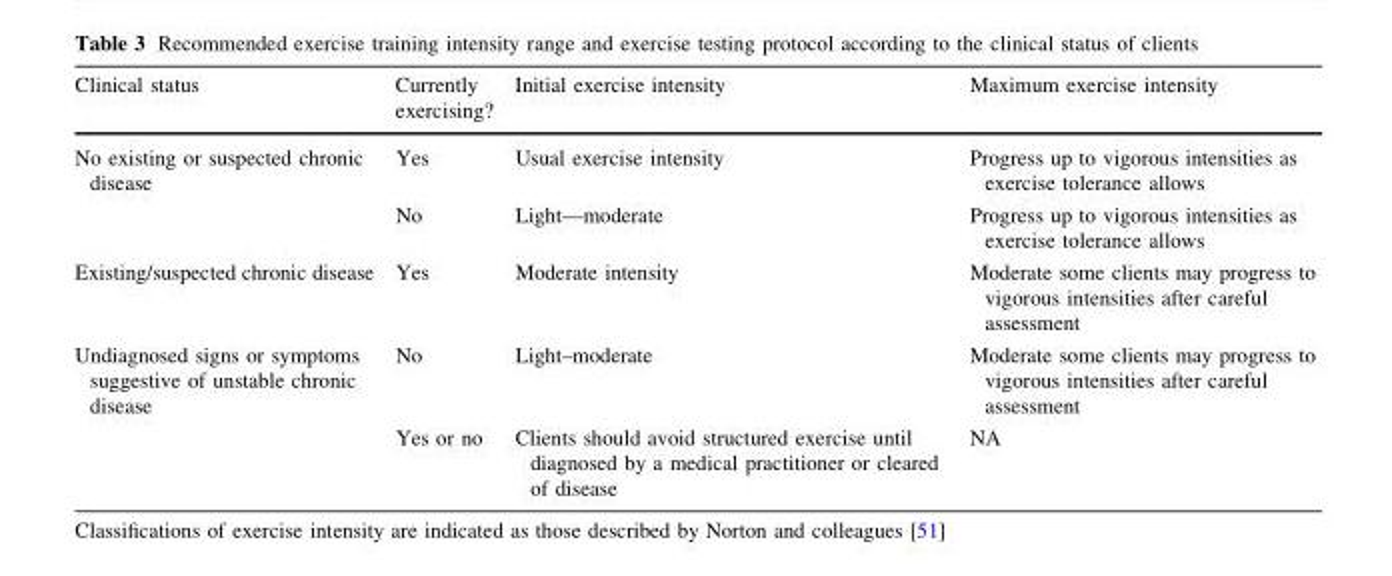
<table><thead><tr><td>Clinical status</td><td>Currently exercising?</td><td>Initial exercise intensity</td><td>Maximum exercise intensity</td></tr></thead><tbody><tr><td rowspan="2">No existing or suspected chronic disease</td><td>Yes</td><td>Usual exercise intensity</td><td>Progress up to vigorous intensities as exercise tolerance allows</td></tr><tr><td>No</td><td>Light—moderate</td><td>Progress up to vigorous intensities as exercise tolerance allows</td></tr><tr><td>Existing/suspected chronic disease</td><td>Yes</td><td>Moderate intensity</td><td>Moderate some clients may progress to vigorous intensities after careful assessment</td></tr><tr><td rowspan="2">Undiagnosed signs or symptoms suggestive of unstable chronic disease</td><td>No</td><td>Light–moderate</td><td>Moderate some clients may progress to vigorous intensities after careful assessment</td></tr><tr><td>Yes or no</td><td>Clients should avoid structured exercise until diagnosed by a medical practitioner or cleared of disease</td><td>NA</td></tr></tbody></table>